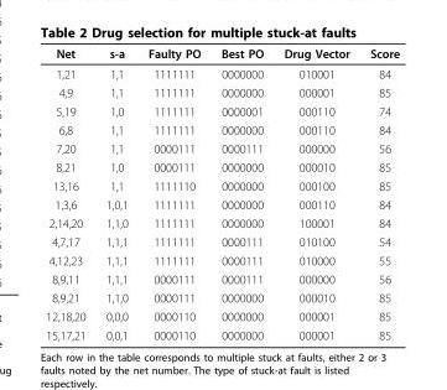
<table><thead><tr><td>Net</td><td>s-a</td><td>Faulty PO</td><td>Best PO</td><td>Drug Vector</td><td>Score</td></tr></thead><tbody><tr><td>1,21</td><td>1,1</td><td>1111111</td><td>0000000</td><td>010001</td><td>84</td></tr><tr><td>4,9</td><td>1,1</td><td>1111111</td><td>0000000</td><td>000001</td><td>85</td></tr><tr><td>5,19</td><td>1,0</td><td>1111111</td><td>0000001</td><td>000110</td><td>74</td></tr><tr><td>6,8</td><td>1,1</td><td>1111111</td><td>0000000</td><td>000110</td><td>84</td></tr><tr><td>7,20</td><td>1,1</td><td>0000111</td><td>0000111</td><td>000000</td><td>56</td></tr><tr><td>8,21</td><td>1,0</td><td>0000111</td><td>0000000</td><td>000010</td><td>85</td></tr><tr><td>13,16</td><td>1,1</td><td>1111110</td><td>0000000</td><td>000100</td><td>85</td></tr><tr><td>1,3,6</td><td>1,0,1</td><td>1111111</td><td>0000000</td><td>000110</td><td>84</td></tr><tr><td>2,14,20</td><td>1,1,0</td><td>1111111</td><td>0000000</td><td>100001</td><td>84</td></tr><tr><td>4,7,17</td><td>1,1,1</td><td>1111111</td><td>0000111</td><td>010100</td><td>54</td></tr><tr><td>4,12,23</td><td>1,1,1</td><td>1111111</td><td>0000111</td><td>010000</td><td>55</td></tr><tr><td>8,9,11</td><td>1,1,1</td><td>0000111</td><td>0000111</td><td>000000</td><td>56</td></tr><tr><td>8,9,21</td><td>1,1,0</td><td>0000111</td><td>0000000</td><td>000010</td><td>85</td></tr><tr><td>12,18,20</td><td>0,0,0</td><td>0000110</td><td>0000000</td><td>000001</td><td>85</td></tr><tr><td>15,17,21</td><td>0,0,1</td><td>0000110</td><td>0000000</td><td>000001</td><td>85</td></tr></tbody></table>